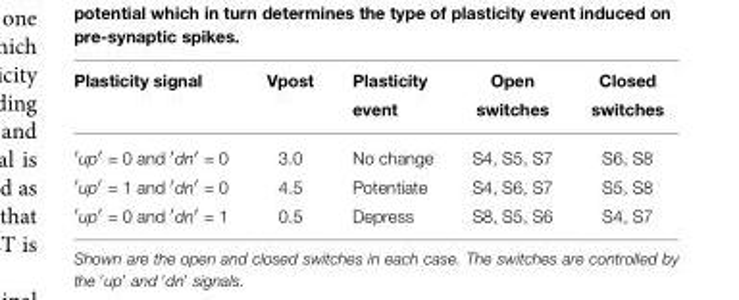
<table><thead><tr><td>Plasticity signal</td><td>Vpost</td><td>Plasticity event</td><td>Open switches</td><td>Closed switches</td></tr></thead><tbody><tr><td>′up′ = 0 and ′dn′ = 0</td><td>3.0</td><td>No change</td><td>S4, S5, S7</td><td>S6, S8</td></tr><tr><td>′up′ = 1 and ′dn′ = 0</td><td>4.5</td><td>Potentiate</td><td>S4, S6, S7</td><td>S5, S8</td></tr><tr><td>′up′ = 0 and ′dn′ = 1</td><td>0.5</td><td>Depress</td><td>S8, S5, S6</td><td>S4, S7</td></tr></tbody></table>